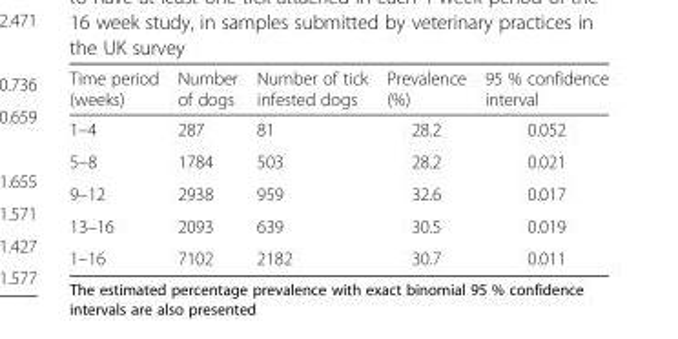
<table><thead><tr><td>Time period (weeks)</td><td>Number of dogs</td><td>Number of tick infested dogs</td><td>Prevalence (%)</td><td>95 % confidence interval</td></tr></thead><tbody><tr><td>1–4</td><td>287</td><td>81</td><td>28.2</td><td>0.052</td></tr><tr><td>5–8</td><td>1784</td><td>503</td><td>28.2</td><td>0.021</td></tr><tr><td>9–12</td><td>2938</td><td>959</td><td>32.6</td><td>0.017</td></tr><tr><td>13–16</td><td>2093</td><td>639</td><td>30.5</td><td>0.019</td></tr><tr><td>1–16</td><td>7102</td><td>2182</td><td>30.7</td><td>0.011</td></tr></tbody></table>